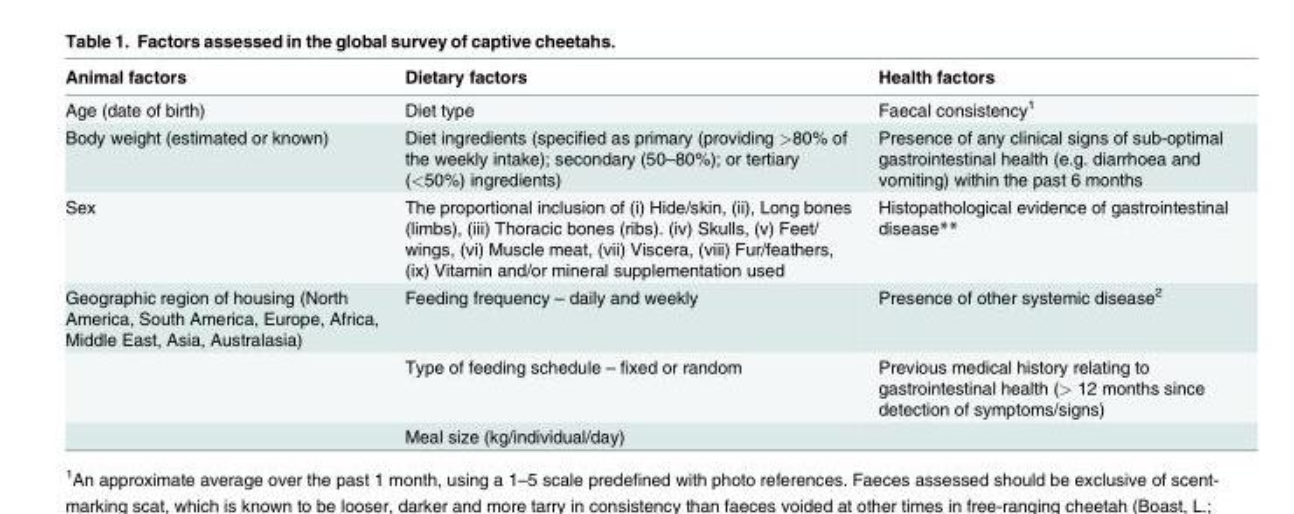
<table><thead><tr><td>Animal factors</td><td>Dietary factors</td><td>Health factors</td></tr></thead><tbody><tr><td>Age (date of birth)</td><td>Diet type</td><td>Faecal consistency<sup>1</sup></td></tr><tr><td>Body weight (estimated or known)</td><td>Diet ingredients (specified as primary (providing &gt;80% of the weekly intake); secondary (50–80%); or tertiary (&lt;50%) ingredients)</td><td>Presence of any clinical signs of sub-optimal gastrointestinal health (e.g. diarrhoea and vomiting) within the past 6 months</td></tr><tr><td>Sex</td><td>The proportional inclusion of (i) Hide/skin, (ii), Long bones (limbs), (iii) Thoracic bones (ribs). (iv) Skulls, (v) Feet/ wings, (vi) Muscle meat, (vii) Viscera, (viii) Fur/feathers, (ix) Vitamin and/or mineral supplementation used</td><td>Histopathological evidence of gastrointestinal disease**</td></tr><tr><td rowspan="3">Geographic region of housing (North America, South America, Europe, Africa, Middle East, Asia, Australasia)</td><td>Feeding frequency – daily and weekly</td><td>Presence of other systemic disease<sup>2</sup></td></tr><tr><td>Type of feeding schedule – fixed or random</td><td>Previous medical history relating to gastrointestinal health (&gt; 12 months since detection of symptoms/signs)</td></tr><tr><td>Meal size (kg/individual/day)</td><td></td></tr></tbody></table>